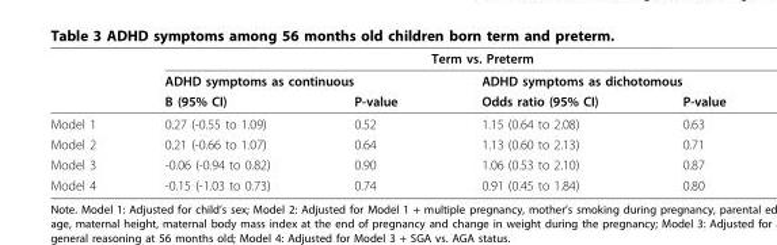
<table><thead><tr><td rowspan="3"></td><td colspan="4">Term vs. Preterm</td></tr><tr><td colspan="2">ADHD symptoms as continuous</td><td colspan="2">ADHD symptoms as dichotomous</td></tr><tr><td>B (95% CI)</td><td>P-value</td><td>Odds ratio (95% CI)</td><td>P-value</td></tr></thead><tbody><tr><td>Model 1</td><td>0.27 (-0.55 to 1.09)</td><td>0.52</td><td>1.15 (0.64 to 2.08)</td><td>0.63</td></tr><tr><td>Model 2</td><td>0.21 (-0.66 to 1.07)</td><td>0.64</td><td>1.13 (0.60 to 2.13)</td><td>0.71</td></tr><tr><td>Model 3</td><td>-0.06 (-0.94 to 0.82)</td><td>0.90</td><td>1.06 (0.53 to 2.10)</td><td>0.87</td></tr><tr><td>Model 4</td><td>-0.15 (-1.03 to 0.73)</td><td>0.74</td><td>0.91 (0.45 to 1.84)</td><td>0.80</td></tr></tbody></table>